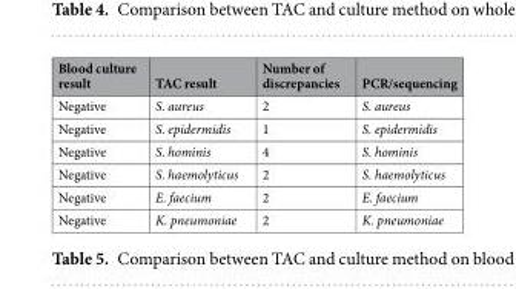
<table><thead><tr><td>Blood culture result</td><td>TAC result</td><td>Number of discrepancies</td><td>PCR/sequencing</td></tr></thead><tbody><tr><td>Negative</td><td>S. aureus</td><td>2</td><td>S. aureus</td></tr><tr><td>Negative</td><td>S. epidermidis</td><td>1</td><td>S. epidermidis</td></tr><tr><td>Negative</td><td>S. hominis</td><td>4</td><td>S. hominis</td></tr><tr><td>Negative</td><td>S. haemolyticus</td><td>2</td><td>S. haemolyticus</td></tr><tr><td>Negative</td><td>E. faecium</td><td>2</td><td>E. faecium</td></tr><tr><td>Negative</td><td>K. pneumoniae</td><td>2</td><td>K. pneumoniae</td></tr></tbody></table>